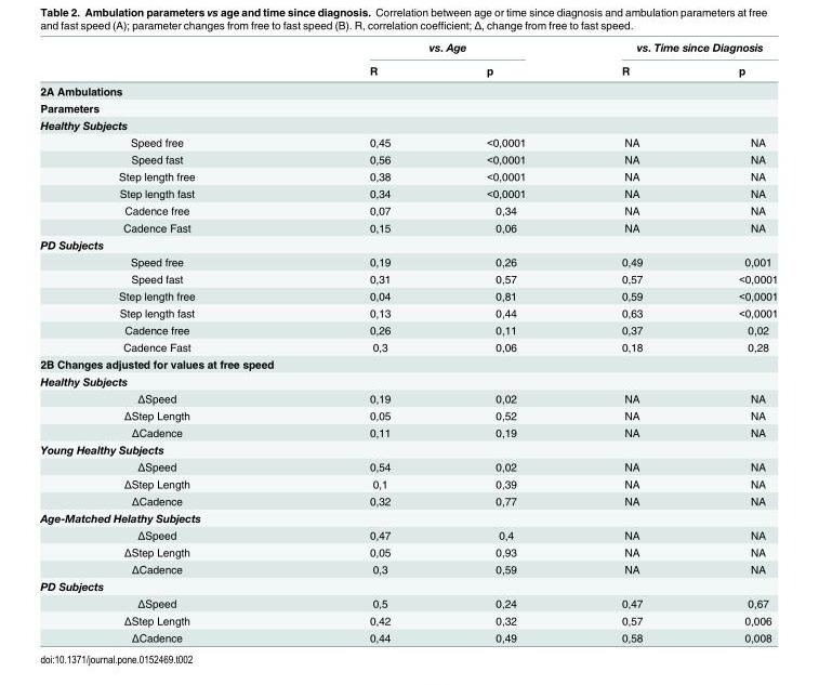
<table><thead><tr><td rowspan="2"></td><td colspan="2">vs. Age</td><td colspan="2">vs. Time since Diagnosis</td></tr><tr><td>R</td><td>p</td><td>R</td><td>p</td></tr></thead><tbody><tr><td colspan="5">2A Ambulations</td></tr><tr><td colspan="5">Parameters</td></tr><tr><td colspan="5">Healthy Subjects</td></tr><tr><td>Speed free</td><td>0,45</td><td>&lt;0,0001</td><td>NA</td><td>NA</td></tr><tr><td>Speed fast</td><td>0,56</td><td>&lt;0,0001</td><td>NA</td><td>NA</td></tr><tr><td>Step length free</td><td>0,38</td><td>&lt;0,0001</td><td>NA</td><td>NA</td></tr><tr><td>Step length fast</td><td>0,34</td><td>&lt;0,0001</td><td>NA</td><td>NA</td></tr><tr><td>Cadence free</td><td>0,07</td><td>0,34</td><td>NA</td><td>NA</td></tr><tr><td>Cadence Fast</td><td>0,15</td><td>0,06</td><td>NA</td><td>NA</td></tr><tr><td colspan="5">PD Subjects</td></tr><tr><td>Speed free</td><td>0,19</td><td>0,26</td><td>0,49</td><td>0,001</td></tr><tr><td>Speed fast</td><td>0,31</td><td>0,57</td><td>0,57</td><td>&lt;0,0001</td></tr><tr><td>Step length free</td><td>0,04</td><td>0,81</td><td>0,59</td><td>&lt;0,0001</td></tr><tr><td>Step length fast</td><td>0,13</td><td>0,44</td><td>0,63</td><td>&lt;0,0001</td></tr><tr><td>Cadence free</td><td>0,26</td><td>0,11</td><td>0,37</td><td>0,02</td></tr><tr><td>Cadence Fast</td><td>0,3</td><td>0,06</td><td>0,18</td><td>0,28</td></tr><tr><td colspan="5">2B Changes adjusted for values at free speed</td></tr><tr><td colspan="5">Healthy Subjects</td></tr><tr><td>ΔSpeed</td><td>0,19</td><td>0,02</td><td>NA</td><td>NA</td></tr><tr><td>ΔStep Length</td><td>0,05</td><td>0,52</td><td>NA</td><td>NA</td></tr><tr><td>ΔCadence</td><td>0,11</td><td>0,19</td><td>NA</td><td>NA</td></tr><tr><td colspan="5">Young Healthy Subjects</td></tr><tr><td>ΔSpeed</td><td>0,54</td><td>0,02</td><td>NA</td><td>NA</td></tr><tr><td>ΔStep Length</td><td>0,1</td><td>0,39</td><td>NA</td><td>NA</td></tr><tr><td>ΔCadence</td><td>0,32</td><td>0,77</td><td>NA</td><td>NA</td></tr><tr><td colspan="5">Age-Matched Helathy Subjects</td></tr><tr><td>ΔSpeed</td><td>0,47</td><td>0,4</td><td>NA</td><td>NA</td></tr><tr><td>ΔStep Length</td><td>0,05</td><td>0,93</td><td>NA</td><td>NA</td></tr><tr><td>ΔCadence</td><td>0,3</td><td>0,59</td><td>NA</td><td>NA</td></tr><tr><td colspan="5">PD Subjects</td></tr><tr><td>ΔSpeed</td><td>0,5</td><td>0,24</td><td>0,47</td><td>0,67</td></tr><tr><td>ΔStep Length</td><td>0,42</td><td>0,32</td><td>0,57</td><td>0,006</td></tr><tr><td>ΔCadence</td><td>0,44</td><td>0,49</td><td>0,58</td><td>0,008</td></tr></tbody></table>